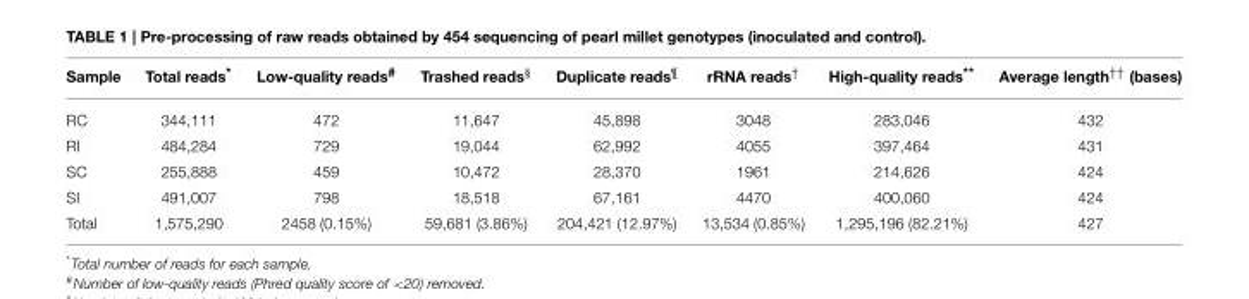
<table><thead><tr><td>Sample</td><td>Total reads*</td><td>Low-quality reads<sup>#</sup></td><td>Trashed reads<sup>§</sup></td><td>Duplicate reads<sup>¶</sup></td><td>rRNA reads<sup>†</sup></td><td>High-quality reads**</td><td>Average length<sup>††</sup> (bases)</td></tr></thead><tbody><tr><td>RC</td><td>344,111</td><td>472</td><td>11,647</td><td>45,898</td><td>3048</td><td>283,046</td><td>432</td></tr><tr><td>RI</td><td>484,284</td><td>729</td><td>19,044</td><td>62,992</td><td>4055</td><td>397,464</td><td>431</td></tr><tr><td>SC</td><td>255,888</td><td>459</td><td>10,472</td><td>28,370</td><td>1961</td><td>214,626</td><td>424</td></tr><tr><td>SI</td><td>491,007</td><td>798</td><td>18,518</td><td>67,161</td><td>4470</td><td>400,060</td><td>424</td></tr><tr><td>Total</td><td>1,575,290</td><td>2458 (0.15%)</td><td>59,681 (3.86%)</td><td>204,421 (12.97%)</td><td>13,534 (0.85%)</td><td>1,295,196 (82.21%)</td><td>427</td></tr></tbody></table>